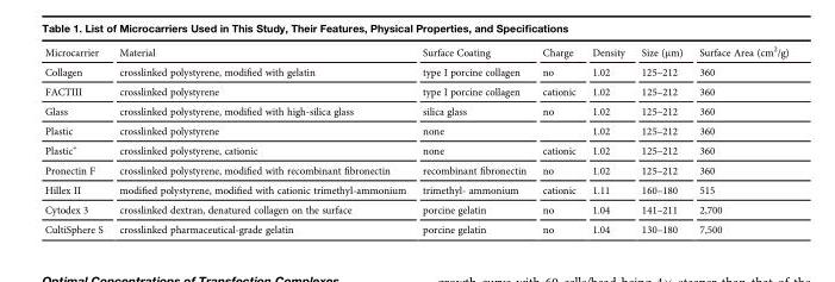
<table><thead><tr><td>Microcarrier</td><td>Material</td><td>Surface Coating</td><td>Charge</td><td>Density</td><td>Size (μm)</td><td>Surface Area (cm<sup>2</sup>/g)</td></tr></thead><tbody><tr><td>Collagen</td><td>crosslinked polystyrene, modified with gelatin</td><td>type I porcine collagen</td><td>no</td><td>1.02</td><td>125–212</td><td>360</td></tr><tr><td>FACTIII</td><td>crosslinked polystyrene</td><td>type I porcine collagen</td><td>cationic</td><td>1.02</td><td>125–212</td><td>360</td></tr><tr><td>Glass</td><td>crosslinked polystyrene, modified with high-silica glass</td><td>silica glass</td><td>no</td><td>1.02</td><td>125–212</td><td>360</td></tr><tr><td>Plastic</td><td>crosslinked polystyrene</td><td>none</td><td></td><td>1.02</td><td>125–212</td><td>360</td></tr><tr><td>Plastic<sup>+</sup></td><td>crosslinked polystyrene, cationic</td><td>none</td><td>cationic</td><td>1.02</td><td>125–212</td><td>360</td></tr><tr><td>Pronectin F</td><td>crosslinked polystyrene, modified with recombinant fibronectin</td><td>recombinant fibronectin</td><td>no</td><td>1.02</td><td>125–212</td><td>360</td></tr><tr><td>Hillex II</td><td>modified polystyrene, modified with cationic trimethyl-ammonium</td><td>trimethyl- ammonium</td><td>cationic</td><td>1.11</td><td>160–180</td><td>515</td></tr><tr><td>Cytodex 3</td><td>crosslinked dextran, denatured collagen on the surface</td><td>porcine gelatin</td><td>no</td><td>1.04</td><td>141–211</td><td>2,700</td></tr><tr><td>CultiSphere S</td><td>crosslinked pharmaceutical-grade gelatin</td><td>porcine gelatin</td><td>no</td><td>1.04</td><td>130–180</td><td>7,500</td></tr></tbody></table>